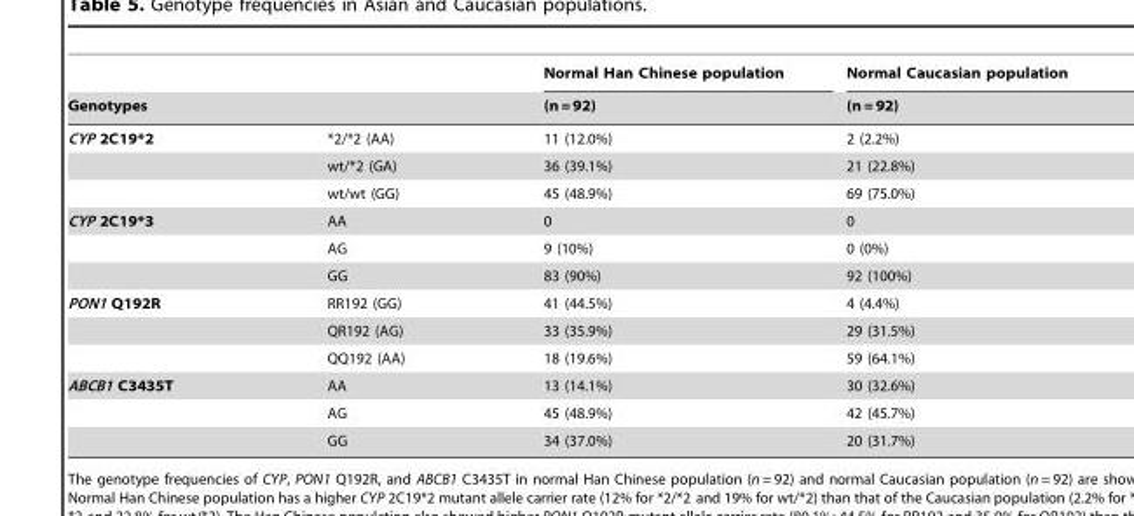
<table><thead><tr><td></td><td></td><td rowspan="2">Normal Han Chinese population (n = 92)</td><td rowspan="2">Normal Caucasian population (n = 92)</td></tr><tr><td colspan="2">Genotypes</td></tr></thead><tbody><tr><td rowspan="3">CYP 2C19*2</td><td>*2/*2 (AA)</td><td>11 (12.0%)</td><td>2 (2.2%)</td></tr><tr><td>wt/*2 (GA)</td><td>36 (39.1%)</td><td>21 (22.8%)</td></tr><tr><td>wt/wt (GG)</td><td>45 (48.9%)</td><td>69 (75.0%)</td></tr><tr><td rowspan="3">CYP 2C19*3</td><td>AA</td><td>0</td><td>0</td></tr><tr><td>AG</td><td>9 (10%)</td><td>0 (0%)</td></tr><tr><td>GG</td><td>83 (90%)</td><td>92 (100%)</td></tr><tr><td rowspan="3">PON1 Q192R</td><td>RR192 (GG)</td><td>41 (44.5%)</td><td>4 (4.4%)</td></tr><tr><td>QR192 (AG)</td><td>33 (35.9%)</td><td>29 (31.5%)</td></tr><tr><td>QQ192 (AA)</td><td>18 (19.6%)</td><td>59 (64.1%)</td></tr><tr><td rowspan="3">ABCB1 C3435T</td><td>AA</td><td>13 (14.1%)</td><td>30 (32.6%)</td></tr><tr><td>AG</td><td>45 (48.9%)</td><td>42 (45.7%)</td></tr><tr><td>GG</td><td>34 (37.0%)</td><td>20 (31.7%)</td></tr></tbody></table>